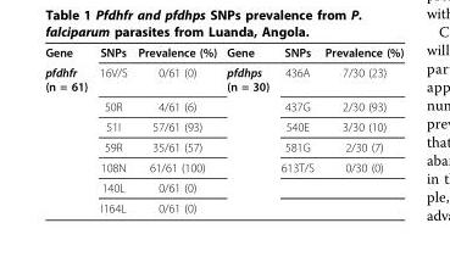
<table><tbody><tr><td>Gene</td><td>SNPs</td><td>Prevalence (%)</td><td>Gene</td><td>SNPs</td><td>Prevalence (%)</td></tr><tr><td rowspan="7">pfdhfr (n = 61)</td><td>16V/S</td><td>0/61 (0)</td><td>pfdhps (n = 30)</td><td>436A</td><td>7/30 (23)</td></tr><tr><td>50R</td><td>4/61 (6)</td><td></td><td>437G</td><td>2/30 (93)</td></tr><tr><td>51I</td><td>57/61 (93)</td><td></td><td>540E</td><td>3/30 (10)</td></tr><tr><td>59R</td><td>35/61 (57)</td><td></td><td>581G</td><td>2/30 (7)</td></tr><tr><td>108N</td><td>61/61 (100)</td><td></td><td>613T/S</td><td>0/30 (0)</td></tr><tr><td>140L</td><td>0/61 (0)</td><td></td><td></td><td></td></tr><tr><td>I164L</td><td>0/61 (0)</td><td></td><td></td><td></td></tr></tbody></table>